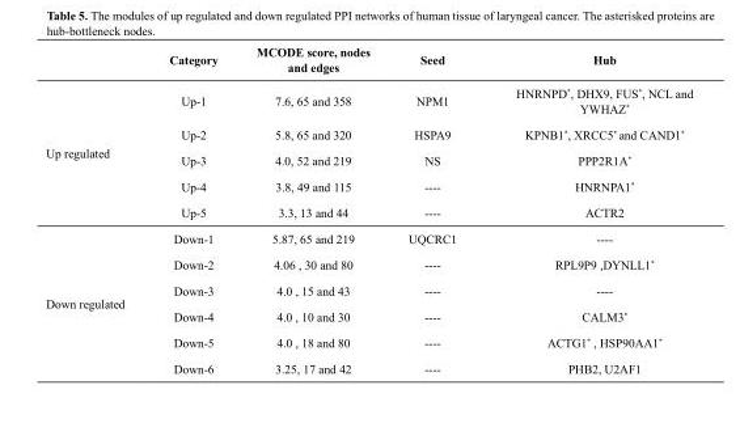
<table><thead><tr><td></td><td>Category</td><td>MCODE score, nodes and edges</td><td>Seed</td><td>Hub</td></tr></thead><tbody><tr><td rowspan="5">Up regulated</td><td>Up-1</td><td>7.6, 65 and 358</td><td>NPM1</td><td>HNRNPD*, DHX9, FUS*, NCL and YWHAZ*</td></tr><tr><td>Up-2</td><td>5.8, 65 and 320</td><td>HSPA9</td><td>KPNB1*, XRCC5* and CAND1*</td></tr><tr><td>Up-3</td><td>4.0, 52 and 219</td><td>NS</td><td>PPP2R1A*</td></tr><tr><td>Up-4</td><td>3.8, 49 and 115</td><td>----</td><td>HNRNPA1*</td></tr><tr><td>Up-5</td><td>3.3, 13 and 44</td><td>----</td><td>ACTR2</td></tr><tr><td rowspan="6">Down regulated</td><td>Down-1</td><td>5.87, 65 and 219</td><td>UQCRC1</td><td>----</td></tr><tr><td>Down-2</td><td>4.06 , 30 and 80</td><td>----</td><td>RPL9P9 ,DYNLL1*</td></tr><tr><td>Down-3</td><td>4.0 , 15 and 43</td><td>----</td><td>----</td></tr><tr><td>Down-4</td><td>4.0 , 10 and 30</td><td>----</td><td>CALM3*</td></tr><tr><td>Down-5</td><td>4.0 , 18 and 80</td><td>----</td><td>ACTG1* , HSP90AA1*</td></tr><tr><td>Down-6</td><td>3.25, 17 and 42</td><td>----</td><td>PHB2, U2AF1</td></tr></tbody></table>